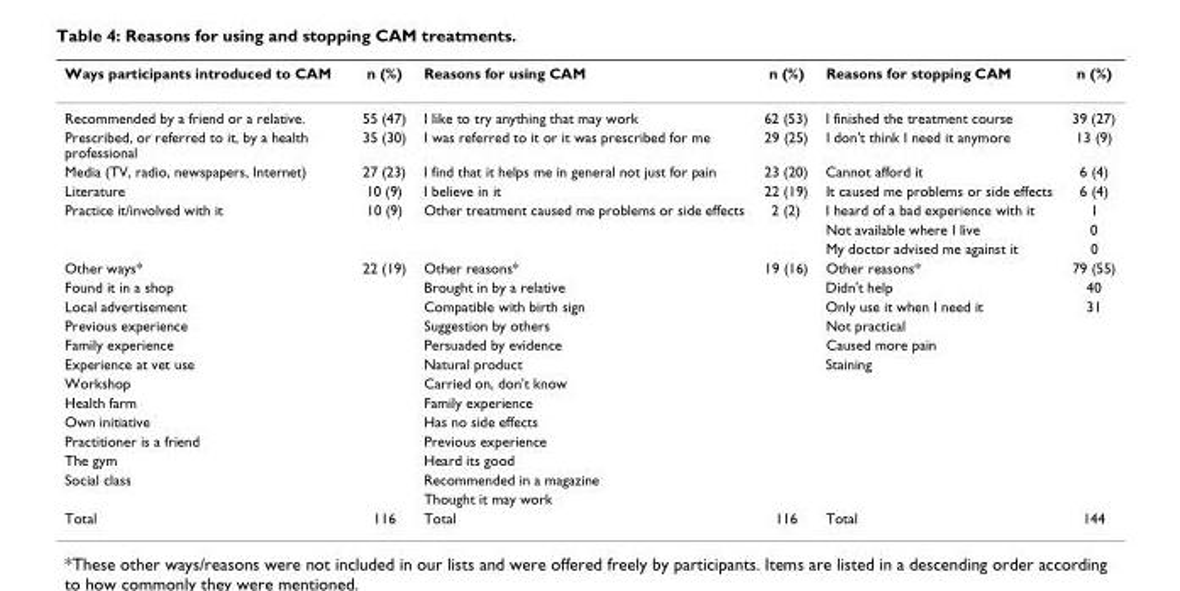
<table><thead><tr><td>Ways participants introduced to CAM</td><td>n (%)</td><td>Reasons for using CAM</td><td>n (%)</td><td>Reasons for stopping CAM</td><td>n (%)</td></tr></thead><tbody><tr><td>Recommended by a friend or a relative.</td><td>55 (47)</td><td>I like to try anything that may work</td><td>62 (53)</td><td>I finished the treatment course</td><td>39 (27)</td></tr><tr><td>Prescribed, or referred to it, by a health professional</td><td>35 (30)</td><td>I was referred to it or it was prescribed for me</td><td>29 (25)</td><td>I don&#x27;t think I need it anymore</td><td>13 (9)</td></tr><tr><td>Media (TV, radio, newspapers, Internet)</td><td>27 (23)</td><td>I find that it helps me in general not just for pain</td><td>23 (20)</td><td>Cannot afford it</td><td>6 (4)</td></tr><tr><td>Literature</td><td>10 (9)</td><td>I believe in it</td><td>22 (19)</td><td>It caused me problems or side effects</td><td>6 (4)</td></tr><tr><td rowspan="3">Practice it/involved with it</td><td>10 (9)</td><td>Other treatment caused me problems or side effects</td><td>2 (2)</td><td>I heard of a bad experience with it</td><td>1</td></tr><tr><td></td><td></td><td></td><td>Not available where I live</td><td>0</td></tr><tr><td></td><td></td><td></td><td>My doctor advised me against it</td><td>0</td></tr><tr><td>Other ways*</td><td>22 (19)</td><td>Other reasons*</td><td>19 (16)</td><td>Other reasons*</td><td>79 (55)</td></tr><tr><td>Found it in a shop</td><td></td><td>Brought in by a relative</td><td></td><td>Didn&#x27;t help</td><td>40</td></tr><tr><td>Local advertisement</td><td></td><td>Compatible with birth sign</td><td></td><td>Only use it when I need it</td><td>31</td></tr><tr><td>Previous experience</td><td></td><td>Suggestion by others</td><td></td><td>Not practical</td><td></td></tr><tr><td>Family experience</td><td></td><td>Persuaded by evidence</td><td></td><td>Caused more pain</td><td></td></tr><tr><td>Experience at vet use</td><td></td><td>Natural product</td><td></td><td>Staining</td><td></td></tr><tr><td>Workshop</td><td></td><td>Carried on, don&#x27;t know</td><td></td><td></td><td></td></tr><tr><td>Health farm</td><td></td><td>Family experience</td><td></td><td></td><td></td></tr><tr><td>Own initiative</td><td></td><td>Has no side effects</td><td></td><td></td><td></td></tr><tr><td>Practitioner is a friend</td><td></td><td>Previous experience</td><td></td><td></td><td></td></tr><tr><td>The gym</td><td></td><td>Heard its good</td><td></td><td></td><td></td></tr><tr><td rowspan="2">Social class</td><td></td><td>Recommended in a magazine</td><td></td><td></td><td></td></tr><tr><td></td><td>Thought it may work</td><td></td><td></td><td></td></tr><tr><td>Total</td><td>116</td><td>Total</td><td>116</td><td>Total</td><td>144</td></tr></tbody></table>